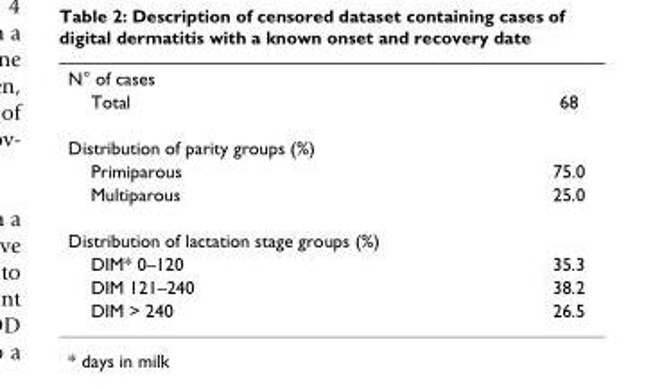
<table><tbody><tr><td colspan="2">N° of cases</td></tr><tr><td>Total</td><td>68</td></tr><tr><td colspan="2">Distribution of parity groups (%)</td></tr><tr><td>Primiparous</td><td>75.0</td></tr><tr><td>Multiparous</td><td>25.0</td></tr><tr><td colspan="2">Distribution of lactation stage groups (%)</td></tr><tr><td>DIM* 0–120</td><td>35.3</td></tr><tr><td>DIM 121–240</td><td>38.2</td></tr><tr><td>DIM &gt; 240</td><td>26.5</td></tr></tbody></table>